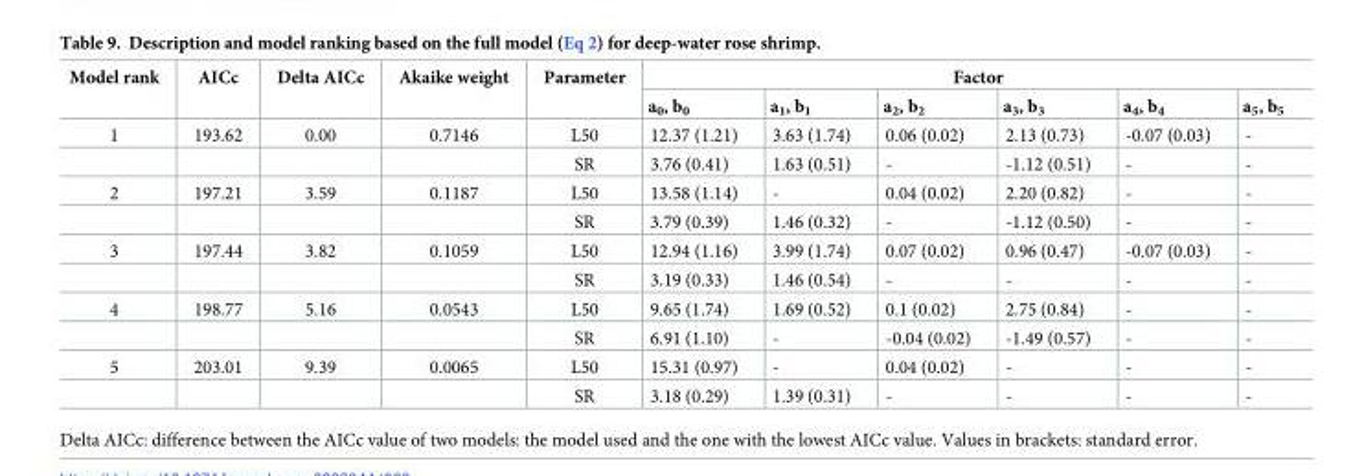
<table><thead><tr><td rowspan="2">Model rank</td><td rowspan="2">AICc</td><td rowspan="2">Delta AICc</td><td rowspan="2">Akaike weight</td><td rowspan="2">Parameter</td><td colspan="6">Factor</td></tr><tr><td>a<sub>0</sub>, b<sub>0</sub></td><td>a<sub>1</sub>, b<sub>1</sub></td><td>a<sub>2</sub>, b<sub>2</sub></td><td>a<sub>3</sub>, b<sub>3</sub></td><td>a<sub>4</sub>, b<sub>4</sub></td><td>a<sub>5</sub>, b<sub>5</sub></td></tr></thead><tbody><tr><td rowspan="2">1</td><td>193.62</td><td>0.00</td><td>0.7146</td><td>L50</td><td>12.37 (1.21)</td><td>3.63 (1.74)</td><td>0.06 (0.02)</td><td>2.13 (0.73)</td><td>-0.07 (0.03)</td><td>-</td></tr><tr><td></td><td></td><td></td><td>SR</td><td>3.76 (0.41)</td><td>1.63 (0.51)</td><td>-</td><td>-1.12 (0.51)</td><td>-</td><td>-</td></tr><tr><td rowspan="2">2</td><td>197.21</td><td>3.59</td><td>0.1187</td><td>L50</td><td>13.58 (1.14)</td><td>-</td><td>0.04 (0.02)</td><td>2.20 (0.82)</td><td>-</td><td>-</td></tr><tr><td></td><td></td><td></td><td>SR</td><td>3.79 (0.39)</td><td>1.46 (0.32)</td><td>-</td><td>-1.12 (0.50)</td><td>-</td><td>-</td></tr><tr><td rowspan="2">3</td><td>197.44</td><td>3.82</td><td>0.1059</td><td>L50</td><td>12.94 (1.16)</td><td>3.99 (1.74)</td><td>0.07 (0.02)</td><td>0.96 (0.47)</td><td>-0.07 (0.03)</td><td>-</td></tr><tr><td></td><td></td><td></td><td>SR</td><td>3.19 (0.33)</td><td>1.46 (0.54)</td><td>-</td><td>-</td><td>-</td><td>-</td></tr><tr><td rowspan="2">4</td><td>198.77</td><td>5.16</td><td>0.0543</td><td>L50</td><td>9.65 (1.74)</td><td>1.69 (0.52)</td><td>0.1 (0.02)</td><td>2.75 (0.84)</td><td>-</td><td>-</td></tr><tr><td></td><td></td><td></td><td>SR</td><td>6.91 (1.10)</td><td>-</td><td>-0.04 (0.02)</td><td>-1.49 (0.57)</td><td>-</td><td>-</td></tr><tr><td rowspan="2">5</td><td>203.01</td><td>9.39</td><td>0.0065</td><td>L50</td><td>15.31 (0.97)</td><td>-</td><td>0.04 (0.02)</td><td>-</td><td>-</td><td>-</td></tr><tr><td></td><td></td><td></td><td>SR</td><td>3.18 (0.29)</td><td>1.39 (0.31)</td><td>-</td><td>-</td><td>-</td><td>-</td></tr></tbody></table>